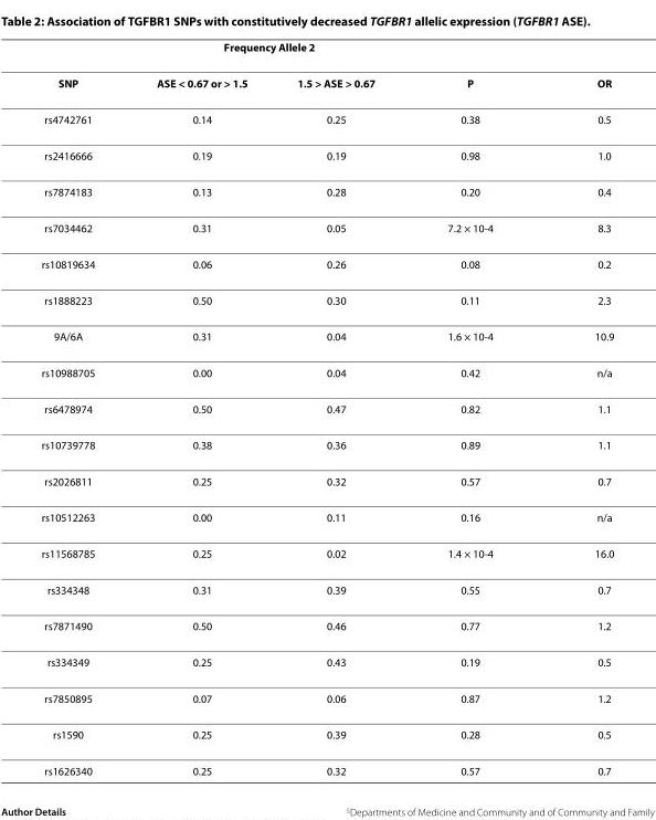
<table><thead><tr><td rowspan="2">SNP</td><td colspan="2">Frequency Allele 2</td><td rowspan="2">P</td><td rowspan="2">OR</td></tr><tr><td>ASE &lt; 0.67 or &gt; 1.5</td><td>1.5 &gt; ASE &gt; 0.67</td></tr></thead><tbody><tr><td>rs4742761</td><td>0.14</td><td>0.25</td><td>0.38</td><td>0.5</td></tr><tr><td>rs2416666</td><td>0.19</td><td>0.19</td><td>0.98</td><td>1.0</td></tr><tr><td>rs7874183</td><td>0.13</td><td>0.28</td><td>0.20</td><td>0.4</td></tr><tr><td>rs7034462</td><td>0.31</td><td>0.05</td><td>7.2 × 10-4</td><td>8.3</td></tr><tr><td>rs10819634</td><td>0.06</td><td>0.26</td><td>0.08</td><td>0.2</td></tr><tr><td>rs1888223</td><td>0.50</td><td>0.30</td><td>0.11</td><td>2.3</td></tr><tr><td>9A/6A</td><td>0.31</td><td>0.04</td><td>1.6 × 10-4</td><td>10.9</td></tr><tr><td>rs10988705</td><td>0.00</td><td>0.04</td><td>0.42</td><td>n/a</td></tr><tr><td>rs6478974</td><td>0.50</td><td>0.47</td><td>0.82</td><td>1.1</td></tr><tr><td>rs10739778</td><td>0.38</td><td>0.36</td><td>0.89</td><td>1.1</td></tr><tr><td>rs2026811</td><td>0.25</td><td>0.32</td><td>0.57</td><td>0.7</td></tr><tr><td>rs10512263</td><td>0.00</td><td>0.11</td><td>0.16</td><td>n/a</td></tr><tr><td>rs11568785</td><td>0.25</td><td>0.02</td><td>1.4 × 10-4</td><td>16.0</td></tr><tr><td>rs334348</td><td>0.31</td><td>0.39</td><td>0.55</td><td>0.7</td></tr><tr><td>rs7871490</td><td>0.50</td><td>0.46</td><td>0.77</td><td>1.2</td></tr><tr><td>rs334349</td><td>0.25</td><td>0.43</td><td>0.19</td><td>0.5</td></tr><tr><td>rs7850895</td><td>0.07</td><td>0.06</td><td>0.87</td><td>1.2</td></tr><tr><td>rs1590</td><td>0.25</td><td>0.39</td><td>0.28</td><td>0.5</td></tr><tr><td>rs1626340</td><td>0.25</td><td>0.32</td><td>0.57</td><td>0.7</td></tr></tbody></table>